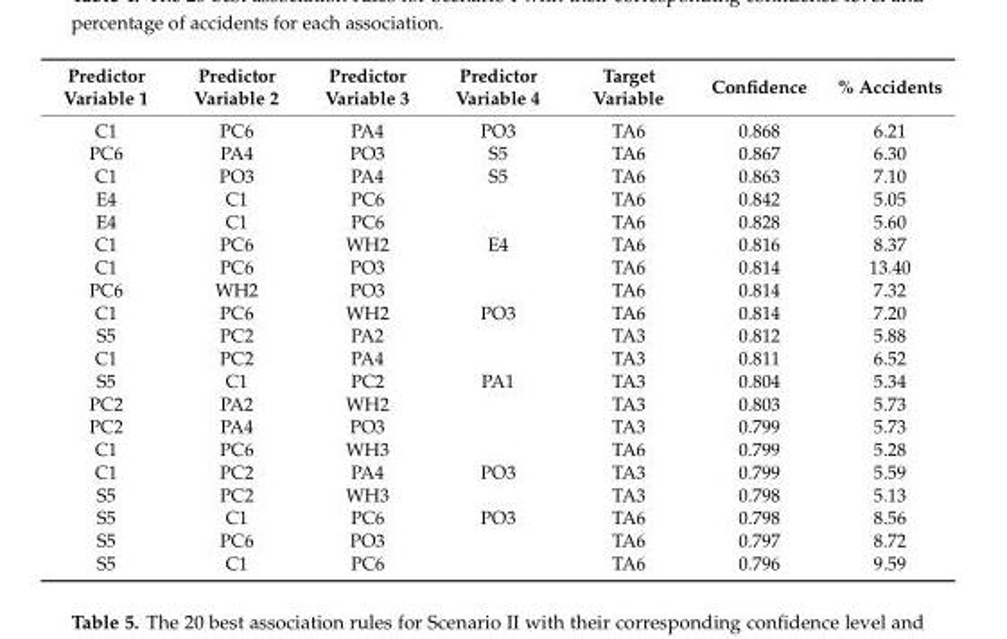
<table><thead><tr><td>Predictor Variable 1</td><td>Predictor Variable 2</td><td>Predictor Variable 3</td><td>Predictor Variable 4</td><td>Target Variable</td><td>Confidence</td><td>% Accidents</td></tr></thead><tbody><tr><td>C1</td><td>PC6</td><td>PA4</td><td>PO3</td><td>TA6</td><td>0.868</td><td>6.21</td></tr><tr><td>PC6</td><td>PA4</td><td>PO3</td><td>S5</td><td>TA6</td><td>0.867</td><td>6.30</td></tr><tr><td>C1</td><td>PO3</td><td>PA4</td><td>S5</td><td>TA6</td><td>0.863</td><td>7.10</td></tr><tr><td>E4</td><td>C1</td><td>PC6</td><td></td><td>TA6</td><td>0.842</td><td>5.05</td></tr><tr><td>E4</td><td>C1</td><td>PC6</td><td></td><td>TA6</td><td>0.828</td><td>5.60</td></tr><tr><td>C1</td><td>PC6</td><td>WH2</td><td>E4</td><td>TA6</td><td>0.816</td><td>8.37</td></tr><tr><td>C1</td><td>PC6</td><td>PO3</td><td></td><td>TA6</td><td>0.814</td><td>13.40</td></tr><tr><td>PC6</td><td>WH2</td><td>PO3</td><td></td><td>TA6</td><td>0.814</td><td>7.32</td></tr><tr><td>C1</td><td>PC6</td><td>WH2</td><td>PO3</td><td>TA6</td><td>0.814</td><td>7.20</td></tr><tr><td>S5</td><td>PC2</td><td>PA2</td><td></td><td>TA3</td><td>0.812</td><td>5.88</td></tr><tr><td>C1</td><td>PC2</td><td>PA4</td><td></td><td>TA3</td><td>0.811</td><td>6.52</td></tr><tr><td>S5</td><td>C1</td><td>PC2</td><td>PA1</td><td>TA3</td><td>0.804</td><td>5.34</td></tr><tr><td>PC2</td><td>PA2</td><td>WH2</td><td></td><td>TA3</td><td>0.803</td><td>5.73</td></tr><tr><td>PC2</td><td>PA4</td><td>PO3</td><td></td><td>TA3</td><td>0.799</td><td>5.73</td></tr><tr><td>C1</td><td>PC6</td><td>WH3</td><td></td><td>TA6</td><td>0.799</td><td>5.28</td></tr><tr><td>C1</td><td>PC2</td><td>PA4</td><td>PO3</td><td>TA3</td><td>0.799</td><td>5.59</td></tr><tr><td>S5</td><td>PC2</td><td>WH3</td><td></td><td>TA3</td><td>0.798</td><td>5.13</td></tr><tr><td>S5</td><td>C1</td><td>PC6</td><td>PO3</td><td>TA6</td><td>0.798</td><td>8.56</td></tr><tr><td>S5</td><td>PC6</td><td>PO3</td><td></td><td>TA6</td><td>0.797</td><td>8.72</td></tr><tr><td>S5</td><td>C1</td><td>PC6</td><td></td><td>TA6</td><td>0.796</td><td>9.59</td></tr></tbody></table>